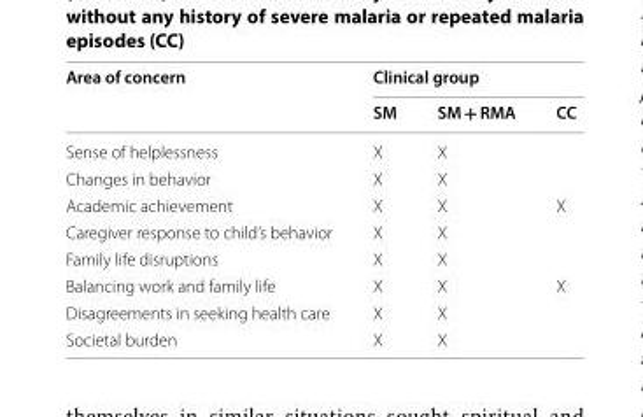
<table><thead><tr><td rowspan="2">Area of concern</td><td colspan="3">Clinical group</td></tr><tr><td>SM</td><td>SM + RMA</td><td>CC</td></tr></thead><tbody><tr><td>Sense of helplessness</td><td>X</td><td>X</td><td></td></tr><tr><td>Changes in behavior</td><td>X</td><td>X</td><td></td></tr><tr><td>Academic achievement</td><td>X</td><td>X</td><td>X</td></tr><tr><td>Caregiver response to child’s behavior</td><td>X</td><td>X</td><td></td></tr><tr><td>Family life disruptions</td><td>X</td><td>X</td><td></td></tr><tr><td>Balancing work and family life</td><td>X</td><td>X</td><td>X</td></tr><tr><td>Disagreements in seeking health care</td><td>X</td><td>X</td><td></td></tr><tr><td>Societal burden</td><td>X</td><td>X</td><td></td></tr></tbody></table>